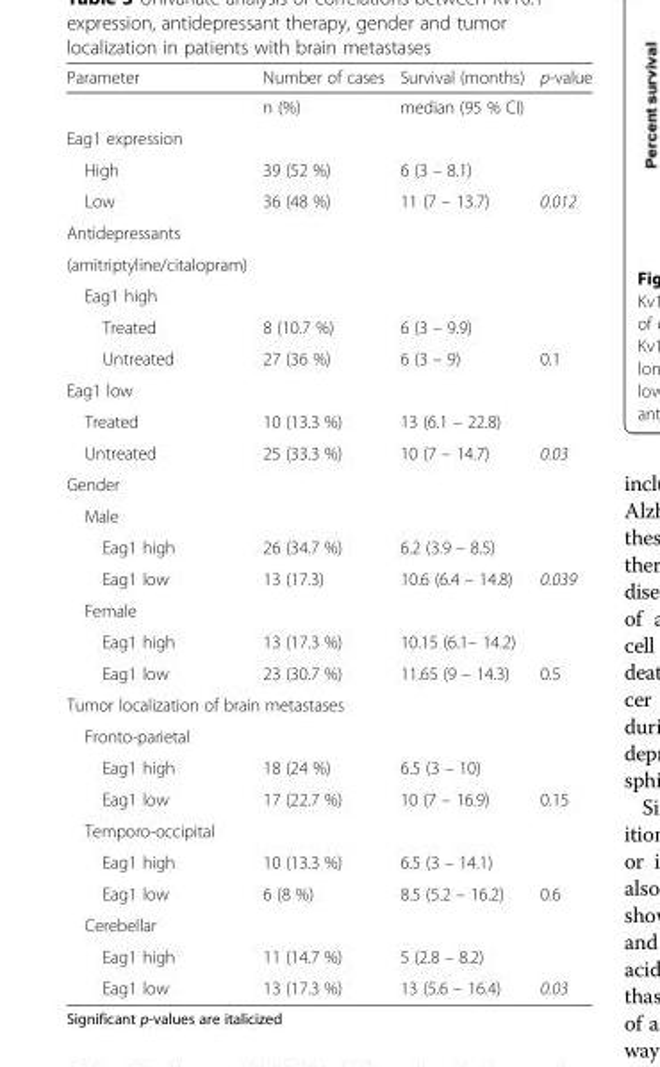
<table><thead><tr><td>Parameter</td><td>Number of cases</td><td>Survival (months)</td><td>p-value</td></tr></thead><tbody><tr><td></td><td>n (%)</td><td>median (95 % CI)</td><td></td></tr><tr><td colspan="4">Eag1 expression</td></tr><tr><td>High</td><td>39 (52 %)</td><td>6 (3 – 8.1)</td><td></td></tr><tr><td>Low</td><td>36 (48 %)</td><td>11 (7 – 13.7)</td><td>0.012</td></tr><tr><td colspan="4">Antidepressants</td></tr><tr><td colspan="4">(amitriptyline/citalopram)</td></tr><tr><td colspan="4">Eag1 high</td></tr><tr><td>Treated</td><td>8 (10.7 %)</td><td>6 (3 – 9.9)</td><td></td></tr><tr><td>Untreated</td><td>27 (36 %)</td><td>6 (3 – 9)</td><td>0.1</td></tr><tr><td colspan="4">Eag1 low</td></tr><tr><td>Treated</td><td>10 (13.3 %)</td><td>13 (6.1 – 22.8)</td><td></td></tr><tr><td>Untreated</td><td>25 (33.3 %)</td><td>10 (7 – 14.7)</td><td>0.03</td></tr><tr><td colspan="4">Gender</td></tr><tr><td colspan="4">Male</td></tr><tr><td>Eag1 high</td><td>26 (34.7 %)</td><td>6.2 (3.9 – 8.5)</td><td></td></tr><tr><td>Eag1 low</td><td>13 (17.3)</td><td>10.6 (6.4 – 14.8)</td><td>0.039</td></tr><tr><td colspan="4">Female</td></tr><tr><td>Eag1 high</td><td>13 (17.3 %)</td><td>10.15 (6.1– 14.2)</td><td></td></tr><tr><td>Eag1 low</td><td>23 (30.7 %)</td><td>11.65 (9 – 14.3)</td><td>0.5</td></tr><tr><td colspan="4">Tumor localization of brain metastases</td></tr><tr><td colspan="4">Fronto-parietal</td></tr><tr><td>Eag1 high</td><td>18 (24 %)</td><td>6.5 (3 – 10)</td><td></td></tr><tr><td>Eag1 low</td><td>17 (22.7 %)</td><td>10 (7 – 16.9)</td><td>0.15</td></tr><tr><td colspan="4">Temporo-occipital</td></tr><tr><td>Eag1 high</td><td>10 (13.3 %)</td><td>6.5 (3 – 14.1)</td><td></td></tr><tr><td>Eag1 low</td><td>6 (8 %)</td><td>8.5 (5.2 – 16.2)</td><td>0.6</td></tr><tr><td colspan="4">Cerebellar</td></tr><tr><td>Eag1 high</td><td>11 (14.7 %)</td><td>5 (2.8 – 8.2)</td><td></td></tr><tr><td>Eag1 low</td><td>13 (17.3 %)</td><td>13 (5.6 – 16.4)</td><td>0.03</td></tr></tbody></table>